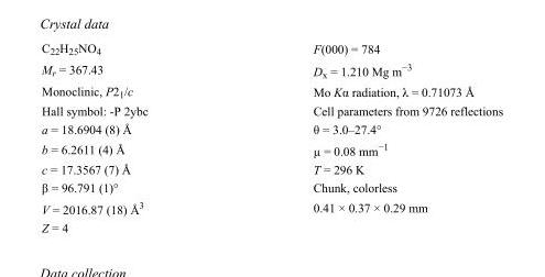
<table><tbody><tr><td>C<sub>22</sub>H<sub>25</sub>NO<sub>4</sub></td><td>F(000) = 784</td></tr><tr><td>M<sub>r</sub> = 367.43</td><td>D<sub>x</sub> = 1.210 Mg m<sup>−3</sup></td></tr><tr><td>Monoclinic, P2<sub>1</sub>/c</td><td>Mo Kα radiation, λ = 0.71073 Å</td></tr><tr><td>Hall symbol: -P 2ybc</td><td>Cell parameters from 9726 reflections</td></tr><tr><td>a = 18.6904 (8) Å</td><td>θ = 3.0–27.4°</td></tr><tr><td>b = 6.2611 (4) Å</td><td>µ = 0.08 mm<sup>−1</sup></td></tr><tr><td>c = 17.3567 (7) Å</td><td>T = 296 K</td></tr><tr><td>β = 96.791 (1)°</td><td>Chunk, colorless</td></tr><tr><td>V = 2016.87 (18) Å<sup>3</sup></td><td>0.41 × 0.37 × 0.29 mm</td></tr><tr><td>Z = 4</td><td></td></tr></tbody></table>